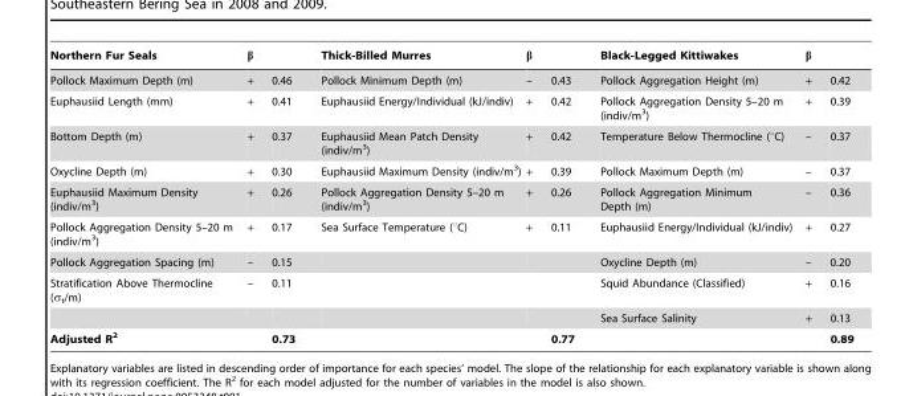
<table><thead><tr><td rowspan="2">Northern Fur Seals Pollock Maximum Depth (m)</td><td colspan="2">β</td><td rowspan="2">Thick-Billed Murres Pollock Minimum Depth (m)</td><td colspan="2">β</td><td rowspan="2">Black-Legged Kittiwakes Pollock Aggregation Height (m)</td><td colspan="2">β</td></tr><tr><td>+</td><td>0.46</td><td>–</td><td>0.43</td><td>+</td><td>0.42</td></tr></thead><tbody><tr><td>Euphausiid Length (mm)</td><td>+</td><td>0.41</td><td>Euphausiid Energy/Individual (kJ/indiv)</td><td>+</td><td>0.42</td><td>Pollock Aggregation Density 5–20 m (indiv/m<sup>3</sup>)</td><td>+</td><td>0.39</td></tr><tr><td>Bottom Depth (m)</td><td>+</td><td>0.37</td><td>Euphausiid Mean Patch Density (indiv/m<sup>3</sup>)</td><td>+</td><td>0.42</td><td>Temperature Below Thermocline (°C)</td><td>–</td><td>0.37</td></tr><tr><td>Oxycline Depth (m)</td><td>+</td><td>0.30</td><td>Euphausiid Maximum Density (indiv/m<sup>3</sup>)</td><td>+</td><td>0.39</td><td>Pollock Maximum Depth (m)</td><td>–</td><td>0.37</td></tr><tr><td>Euphausiid Maximum Density (indiv/m<sup>3</sup>)</td><td>+</td><td>0.26</td><td>Pollock Aggregation Density 5–20 m (indiv/m<sup>3</sup>)</td><td>+</td><td>0.26</td><td>Pollock Aggregation Minimum Depth (m)</td><td>–</td><td>0.36</td></tr><tr><td>Pollock Aggregation Density 5–20 m (indiv/m<sup>3</sup>)</td><td>+</td><td>0.17</td><td>Sea Surface Temperature (°C)</td><td>+</td><td>0.11</td><td>Euphausiid Energy/Individual (kJ/indiv)</td><td>+</td><td>0.27</td></tr><tr><td>Pollock Aggregation Spacing (m)</td><td>–</td><td>0.15</td><td></td><td></td><td></td><td>Oxycline Depth (m)</td><td>–</td><td>0.20</td></tr><tr><td rowspan="2">Stratification Above Thermocline (σ<sub>t</sub>/m)</td><td>–</td><td>0.11</td><td></td><td></td><td></td><td>Squid Abundance (Classified)</td><td>+</td><td>0.16</td></tr><tr><td></td><td></td><td></td><td></td><td></td><td>Sea Surface Salinity</td><td>+</td><td>0.13</td></tr><tr><td>Adjusted R<sup>2</sup></td><td></td><td>0.73</td><td></td><td></td><td>0.77</td><td></td><td></td><td>0.89</td></tr></tbody></table>